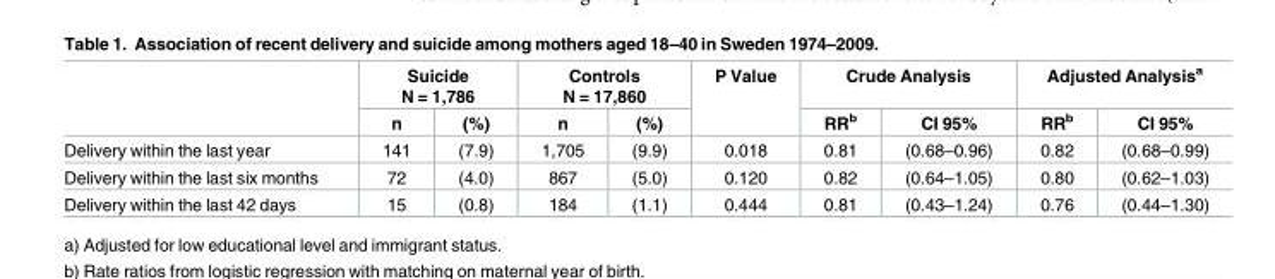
<table><thead><tr><td rowspan="2"></td><td colspan="2">Suicide N = 1,786</td><td colspan="2">Controls N = 17,860</td><td rowspan="2">P Value</td><td colspan="2">Crude Analysis</td><td colspan="2">Adjusted Analysis<sup>a</sup></td></tr><tr><td>n</td><td>(%)</td><td>n</td><td>(%)</td><td>RR<sup>b</sup></td><td>CI 95%</td><td>RR<sup>b</sup></td><td>CI 95%</td></tr></thead><tbody><tr><td>Delivery within the last year</td><td>141</td><td>(7.9)</td><td>1,705</td><td>(9.9)</td><td>0.018</td><td>0.81</td><td>(0.68–0.96)</td><td>0.82</td><td>(0.68–0.99)</td></tr><tr><td>Delivery within the last six months</td><td>72</td><td>(4.0)</td><td>867</td><td>(5.0)</td><td>0.120</td><td>0.82</td><td>(0.64–1.05)</td><td>0.80</td><td>(0.62–1.03)</td></tr><tr><td>Delivery within the last 42 days</td><td>15</td><td>(0.8)</td><td>184</td><td>(1.1)</td><td>0.444</td><td>0.81</td><td>(0.43–1.24)</td><td>0.76</td><td>(0.44–1.30)</td></tr></tbody></table>